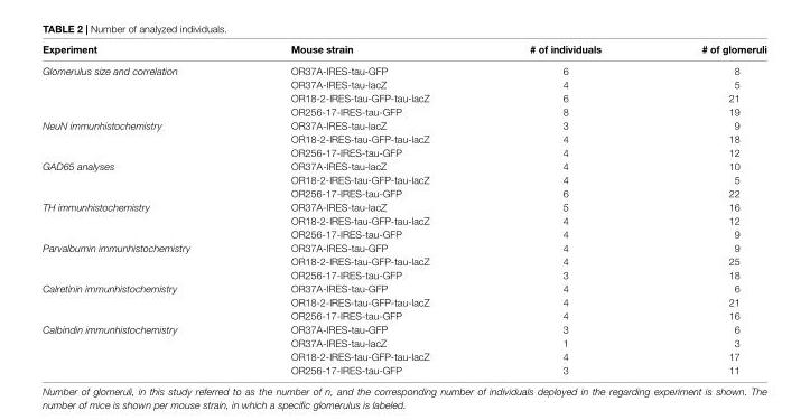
<table><thead><tr><td>Experiment</td><td>Mouse strain</td><td># of individuals</td><td># of glomeruli</td></tr></thead><tbody><tr><td rowspan="4">Glomerulus size and correlation</td><td>OR37A-IRES-tau-GFP</td><td>6</td><td>8</td></tr><tr><td>OR37A-IRES-tau-lacZ</td><td>4</td><td>5</td></tr><tr><td>OR18-2-IRES-tau-GFP-tau-lacZ</td><td>6</td><td>21</td></tr><tr><td>OR256-17-IRES-tau-GFP</td><td>8</td><td>19</td></tr><tr><td rowspan="3">NeuN immunhistochemistry</td><td>OR37A-IRES-tau-lacZ</td><td>3</td><td>9</td></tr><tr><td>OR18-2-IRES-tau-GFP-tau-lacZ</td><td>4</td><td>18</td></tr><tr><td>OR256-17-IRES-tau-GFP</td><td>4</td><td>12</td></tr><tr><td rowspan="3">GAD65 analyses</td><td>OR37A-IRES-tau-lacZ</td><td>4</td><td>10</td></tr><tr><td>OR18-2-IRES-tau-GFP-tau-lacZ</td><td>4</td><td>5</td></tr><tr><td>OR256-17-IRES-tau-GFP</td><td>6</td><td>22</td></tr><tr><td rowspan="3">TH immunhistochemistry</td><td>OR37A-IRES-tau-lacZ</td><td>5</td><td>16</td></tr><tr><td>OR18-2-IRES-tau-GFP-tau-lacZ</td><td>4</td><td>12</td></tr><tr><td>OR256-17-IRES-tau-GFP</td><td>4</td><td>9</td></tr><tr><td rowspan="3">Parvalbumin immunhistochemistry</td><td>OR37A-IRES-tau-GFP</td><td>4</td><td>9</td></tr><tr><td>OR18-2-IRES-tau-GFP-tau-lacZ</td><td>4</td><td>25</td></tr><tr><td>OR256-17-IRES-tau-GFP</td><td>3</td><td>18</td></tr><tr><td rowspan="3">Calretinin immunhistochemistry</td><td>OR37A-IRES-tau-GFP</td><td>4</td><td>6</td></tr><tr><td>OR18-2-IRES-tau-GFP-tau-lacZ</td><td>4</td><td>21</td></tr><tr><td>OR256-17-IRES-tau-GFP</td><td>4</td><td>16</td></tr><tr><td rowspan="4">Calbindin immunhistochemistry</td><td>OR37A-IRES-tau-GFP</td><td>3</td><td>6</td></tr><tr><td>OR37A-IRES-tau-lacZ</td><td>1</td><td>3</td></tr><tr><td>OR18-2-IRES-tau-GFP-tau-lacZ</td><td>4</td><td>17</td></tr><tr><td>OR256-17-IRES-tau-GFP</td><td>3</td><td>11</td></tr></tbody></table>